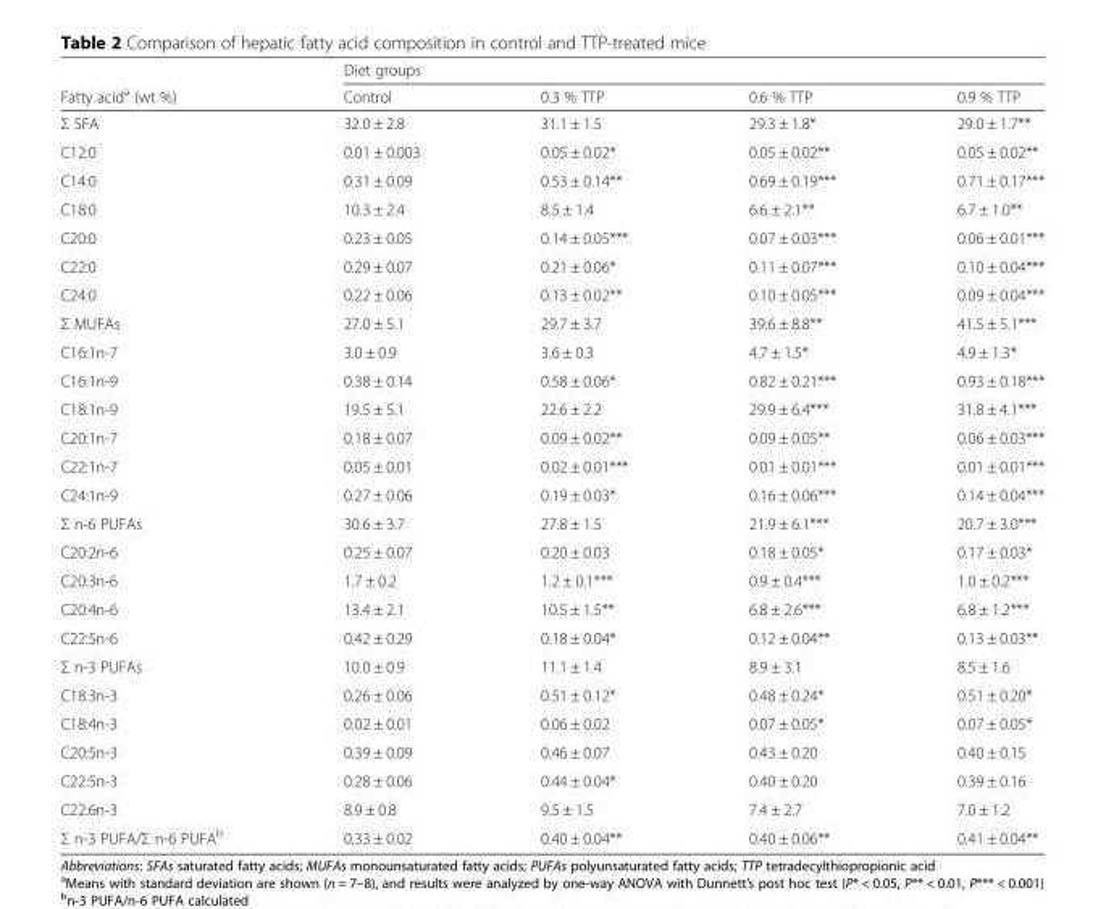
<table><thead><tr><td rowspan="2">Fatty acid<sup>a</sup> (wt %)</td><td colspan="4">Diet groups</td></tr><tr><td>Control</td><td>0.3 % TTP</td><td>0.6 % TTP</td><td>0.9 % TTP</td></tr></thead><tbody><tr><td>Σ SFA</td><td>32.0 ± 2.8</td><td>31.1 ± 1.5</td><td>29.3 ± 1.8*</td><td>29.0 ± 1.7**</td></tr><tr><td>C12:0</td><td>0.01 ± 0.003</td><td>0.05 ± 0.02*</td><td>0.05 ± 0.02**</td><td>0.05 ± 0.02**</td></tr><tr><td>C14:0</td><td>0.31 ± 0.09</td><td>0.53 ± 0.14**</td><td>0.69 ± 0.19***</td><td>0.71 ± 0.17***</td></tr><tr><td>C18:0</td><td>10.3 ± 2.4</td><td>8.5 ± 1.4</td><td>6.6 ± 2.1**</td><td>6.7 ± 1.0**</td></tr><tr><td>C20:0</td><td>0.23 ± 0.05</td><td>0.14 ± 0.05***</td><td>0.07 ± 0.03***</td><td>0.06 ± 0.01***</td></tr><tr><td>C22:0</td><td>0.29 ± 0.07</td><td>0.21 ± 0.06*</td><td>0.11 ± 0.07***</td><td>0.10 ± 0.04***</td></tr><tr><td>C24:0</td><td>0.22 ± 0.06</td><td>0.13 ± 0.02**</td><td>0.10 ± 0.05***</td><td>0.09 ± 0.04***</td></tr><tr><td>Σ MUFAs</td><td>27.0 ± 5.1</td><td>29.7 ± 3.7</td><td>39.6 ± 8.8**</td><td>41.5 ± 5.1***</td></tr><tr><td>C16:1n-7</td><td>3.0 ± 0.9</td><td>3.6 ± 0.3</td><td>4.7 ± 1.5*</td><td>4.9 ± 1.3*</td></tr><tr><td>C16:1n-9</td><td>0.38 ± 0.14</td><td>0.58 ± 0.06*</td><td>0.82 ± 0.21***</td><td>0.93 ± 0.18***</td></tr><tr><td>C18:1n-9</td><td>19.5 ± 5.1</td><td>22.6 ± 2.2</td><td>29.9 ± 6.4***</td><td>31.8 ± 4.1***</td></tr><tr><td>C20:1n-7</td><td>0.18 ± 0.07</td><td>0.09 ± 0.02**</td><td>0.09 ± 0.05**</td><td>0.06 ± 0.03***</td></tr><tr><td>C22:1n-7</td><td>0.05 ± 0.01</td><td>0.02 ± 0.01***</td><td>0.01 ± 0.01***</td><td>0.01 ± 0.01***</td></tr><tr><td>C24:1n-9</td><td>0.27 ± 0.06</td><td>0.19 ± 0.03*</td><td>0.16 ± 0.06***</td><td>0.14 ± 0.04***</td></tr><tr><td>Σ n-6 PUFAs</td><td>30.6 ± 3.7</td><td>27.8 ± 1.5</td><td>21.9 ± 6.1***</td><td>20.7 ± 3.0***</td></tr><tr><td>C20:2n-6</td><td>0.25 ± 0.07</td><td>0.20 ± 0.03</td><td>0.18 ± 0.05*</td><td>0.17 ± 0.03*</td></tr><tr><td>C20:3n-6</td><td>1.7 ± 0.2</td><td>1.2 ± 0.1***</td><td>0.9 ± 0.4***</td><td>1.0 ± 0.2***</td></tr><tr><td>C20:4n-6</td><td>13.4 ± 2.1</td><td>10.5 ± 1.5**</td><td>6.8 ± 2.6***</td><td>6.8 ± 1.2***</td></tr><tr><td>C22:5n-6</td><td>0.42 ± 0.29</td><td>0.18 ± 0.04*</td><td>0.12 ± 0.04**</td><td>0.13 ± 0.03**</td></tr><tr><td>Σ n-3 PUFAs</td><td>10.0 ± 0.9</td><td>11.1 ± 1.4</td><td>8.9 ± 3.1</td><td>8.5 ± 1.6</td></tr><tr><td>C18:3n-3</td><td>0.26 ± 0.06</td><td>0.51 ± 0.12*</td><td>0.48 ± 0.24*</td><td>0.51 ± 0.20*</td></tr><tr><td>C18:4n-3</td><td>0.02 ± 0.01</td><td>0.06 ± 0.02</td><td>0.07 ± 0.05*</td><td>0.07 ± 0.05*</td></tr><tr><td>C20:5n-3</td><td>0.39 ± 0.09</td><td>0.46 ± 0.07</td><td>0.43 ± 0.20</td><td>0.40 ± 0.15</td></tr><tr><td>C22:5n-3</td><td>0.28 ± 0.06</td><td>0.44 ± 0.04*</td><td>0.40 ± 0.20</td><td>0.39 ± 0.16</td></tr><tr><td>C22:6n-3</td><td>8.9 ± 0.8</td><td>9.5 ± 1.5</td><td>7.4 ± 2.7</td><td>7.0 ± 1.2</td></tr><tr><td>Σ n-3 PUFA/Σ n-6 PUFA<sup>b</sup></td><td>0.33 ± 0.02</td><td>0.40 ± 0.04**</td><td>0.40 ± 0.06**</td><td>0.41 ± 0.04**</td></tr></tbody></table>